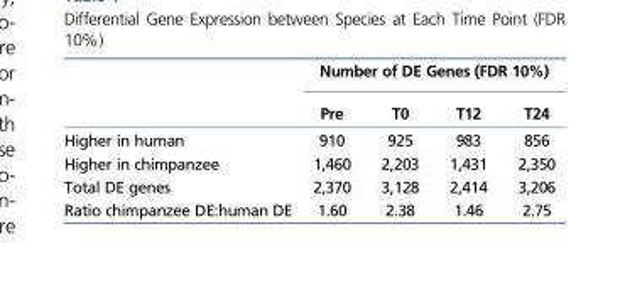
<table><thead><tr><td rowspan="2"></td><td colspan="4">Number of DE Genes (FDR 10%)</td></tr><tr><td>Pre</td><td>T0</td><td>T12</td><td>T24</td></tr></thead><tbody><tr><td>Higher in human</td><td>910</td><td>925</td><td>983</td><td>856</td></tr><tr><td>Higher in chimpanzee</td><td>1,460</td><td>2,203</td><td>1,431</td><td>2,350</td></tr><tr><td>Total DE genes</td><td>2,370</td><td>3,128</td><td>2,414</td><td>3,206</td></tr><tr><td>Ratio chimpanzee DE:human DE</td><td>1.60</td><td>2.38</td><td>1.46</td><td>2.75</td></tr></tbody></table>